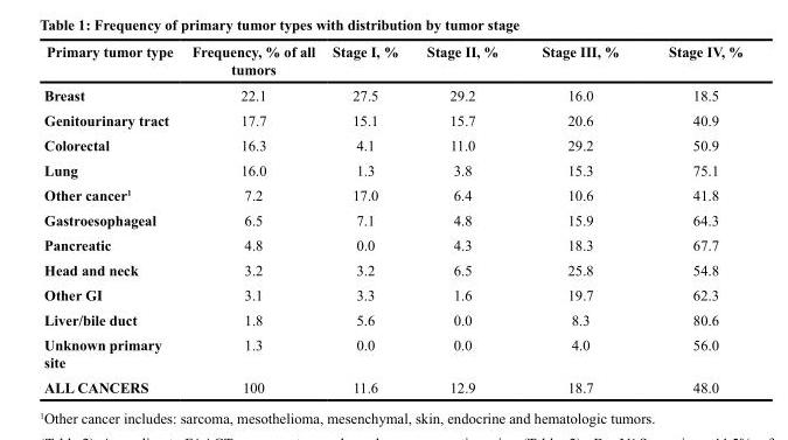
<table><thead><tr><td>Primary tumor type</td><td>Frequency, % of all tumors</td><td>Stage I, %</td><td>Stage II, %</td><td>Stage III, %</td><td>Stage IV, %</td></tr></thead><tbody><tr><td>Breast</td><td>22.1</td><td>27.5</td><td>29.2</td><td>16.0</td><td>18.5</td></tr><tr><td>Genitourinary tract</td><td>17.7</td><td>15.1</td><td>15.7</td><td>20.6</td><td>40.9</td></tr><tr><td>Colorectal</td><td>16.3</td><td>4.1</td><td>11.0</td><td>29.2</td><td>50.9</td></tr><tr><td>Lung</td><td>16.0</td><td>1.3</td><td>3.8</td><td>15.3</td><td>75.1</td></tr><tr><td>Other cancer<sup>1</sup></td><td>7.2</td><td>17.0</td><td>6.4</td><td>10.6</td><td>41.8</td></tr><tr><td>Gastroesophageal</td><td>6.5</td><td>7.1</td><td>4.8</td><td>15.9</td><td>64.3</td></tr><tr><td>Pancreatic</td><td>4.8</td><td>0.0</td><td>4.3</td><td>18.3</td><td>67.7</td></tr><tr><td>Head and neck</td><td>3.2</td><td>3.2</td><td>6.5</td><td>25.8</td><td>54.8</td></tr><tr><td>Other GI</td><td>3.1</td><td>3.3</td><td>1.6</td><td>19.7</td><td>62.3</td></tr><tr><td>Liver/bile duct</td><td>1.8</td><td>5.6</td><td>0.0</td><td>8.3</td><td>80.6</td></tr><tr><td>Unknown primary site</td><td>1.3</td><td>0.0</td><td>0.0</td><td>4.0</td><td>56.0</td></tr><tr><td>ALL CANCERS</td><td>100</td><td>11.6</td><td>12.9</td><td>18.7</td><td>48.0</td></tr></tbody></table>